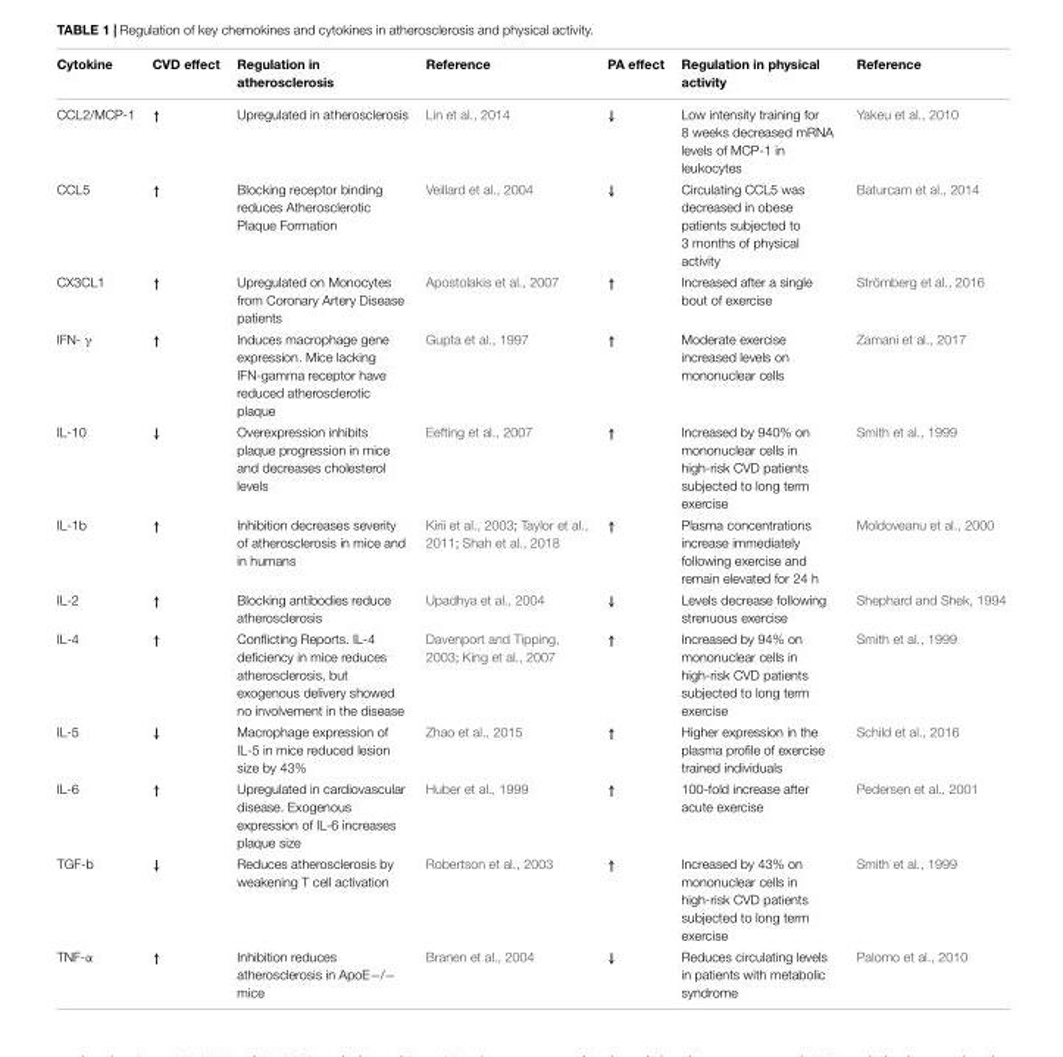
<table><thead><tr><td>Cytokine</td><td>CVD effect</td><td>Regulation in atherosclerosis</td><td>Reference</td><td>PA effect</td><td>Regulation in physical activity</td><td>Reference</td></tr></thead><tbody><tr><td>CCL2/MCP-1</td><td>↑</td><td>Upregulated in atherosclerosis</td><td>Lin et al., 2014</td><td>↓</td><td>Low intensity training for 8 weeks decreased mRNA levels of MCP-1 in leukocytes</td><td>Yakeu et al., 2010</td></tr><tr><td>CCL5</td><td>↑</td><td>Blocking receptor binding reduces Atherosclerotic Plaque Formation</td><td>Veillard et al., 2004</td><td>↓</td><td>Circulating CCL5 was decreased in obese patients subjected to 3 months of physical activity</td><td>Baturcam et al., 2014</td></tr><tr><td>CX3CL1</td><td>↑</td><td>Upregulated on Monocytes from Coronary Artery Disease patients</td><td>Apostolakis et al., 2007</td><td>↑</td><td>Increased after a single bout of exercise</td><td>Strömberg et al., 2016</td></tr><tr><td>IFN- γ</td><td>↑</td><td>Induces macrophage gene expression. Mice lacking IFN-gamma receptor have reduced atherosclerotic plaque</td><td>Gupta et al., 1997</td><td>↑</td><td>Moderate exercise increased levels on mononuclear cells</td><td>Zamani et al., 2017</td></tr><tr><td>IL-10</td><td>↓</td><td>Overexpression inhibits plaque progression in mice and decreases cholesterol levels</td><td>Eefting et al., 2007</td><td>↑</td><td>Increased by 940% on mononuclear cells in high-risk CVD patients subjected to long term exercise</td><td>Smith et al., 1999</td></tr><tr><td>IL-1b</td><td>↑</td><td>Inhibition decreases severity of atherosclerosis in mice and in humans</td><td>Kirii et al., 2003; Taylor et al., 2011; Shah et al., 2018</td><td>↑</td><td>Plasma concentrations increase immediately following exercise and remain elevated for 24 h</td><td>Moldoveanu et al., 2000</td></tr><tr><td>IL-2</td><td>↑</td><td>Blocking antibodies reduce atherosclerosis</td><td>Upadhya et al., 2004</td><td>↓</td><td>Levels decrease following strenuous exercise</td><td>Shephard and Shek, 1994</td></tr><tr><td>IL-4</td><td>↑</td><td>Conflicting Reports. IL-4 deficiency in mice reduces atherosclerosis, but exogenous delivery showed no involvement in the disease</td><td>Davenport and Tipping, 2003; King et al., 2007</td><td>↑</td><td>Increased by 94% on mononuclear cells in high-risk CVD patients subjected to long term exercise</td><td>Smith et al., 1999</td></tr><tr><td>IL-5</td><td>↓</td><td>Macrophage expression of IL-5 in mice reduced lesion size by 43%</td><td>Zhao et al., 2015</td><td>↑</td><td>Higher expression in the plasma profile of exercise trained individuals</td><td>Schild et al., 2016</td></tr><tr><td>IL-6</td><td>↑</td><td>Upregulated in cardiovascular disease. Exogenous expression of IL-6 increases plaque size</td><td>Huber et al., 1999</td><td>↑</td><td>100-fold increase after acute exercise</td><td>Pedersen et al., 2001</td></tr><tr><td>TGF-b</td><td>↓</td><td>Reduces atherosclerosis by weakening T cell activation</td><td>Robertson et al., 2003</td><td>↑</td><td>Increased by 43% on mononuclear cells in high-risk CVD patients subjected to long term exercise</td><td>Smith et al., 1999</td></tr><tr><td>TNF-α</td><td>↑</td><td>Inhibition reduces atherosclerosis in ApoE−/− mice</td><td>Branen et al., 2004</td><td>↓</td><td>Reduces circulating levels in patients with metabolic syndrome</td><td>Palomo et al., 2010</td></tr></tbody></table>